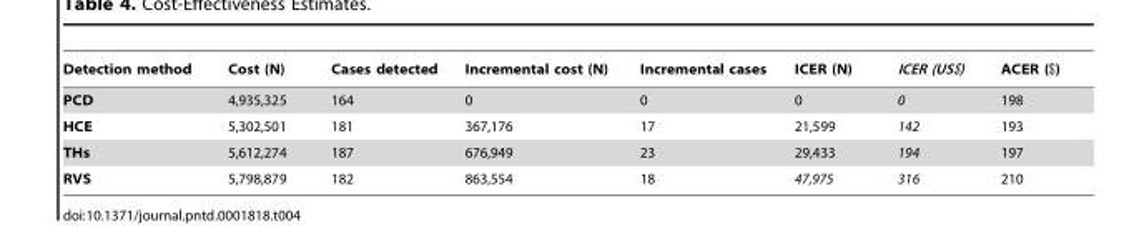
<table><thead><tr><td>Detection method</td><td>Cost (N)</td><td>Cases detected</td><td>Incremental cost (N)</td><td>Incremental cases</td><td>ICER (N)</td><td>ICER (US$)</td><td>ACER ($)</td></tr></thead><tbody><tr><td>PCD</td><td>4,935,325</td><td>164</td><td>0</td><td>0</td><td>0</td><td>0</td><td>198</td></tr><tr><td>HCE</td><td>5,302,501</td><td>181</td><td>367,176</td><td>17</td><td>21,599</td><td>142</td><td>193</td></tr><tr><td>THs</td><td>5,612,274</td><td>187</td><td>676,949</td><td>23</td><td>29,433</td><td>194</td><td>197</td></tr><tr><td>RVS</td><td>5,798,879</td><td>182</td><td>863,554</td><td>18</td><td>47,975</td><td>316</td><td>210</td></tr></tbody></table>